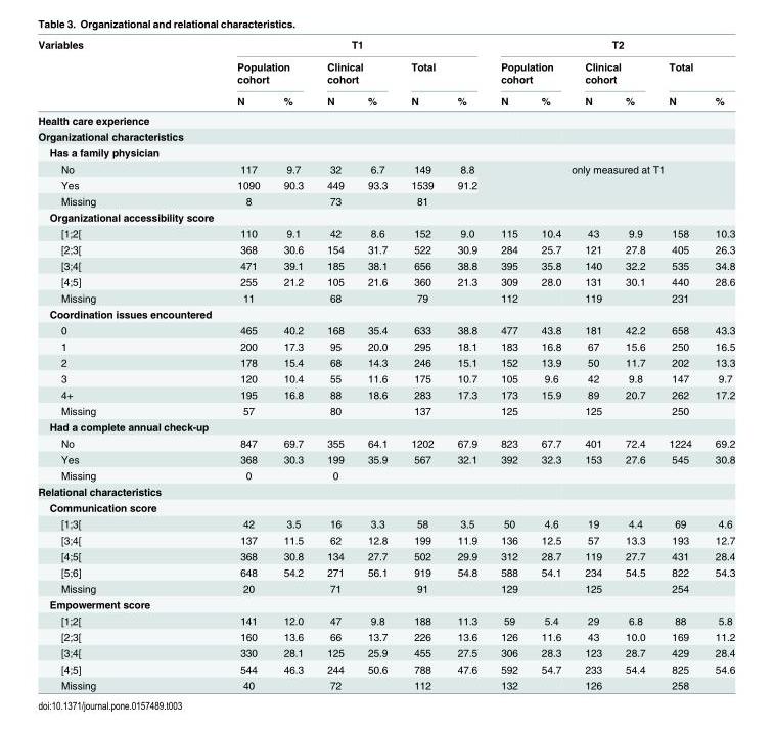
<table><thead><tr><td rowspan="3">Variables</td><td colspan="6">T1</td><td colspan="6">T2</td></tr><tr><td colspan="2">Population cohort</td><td colspan="2">Clinical cohort</td><td colspan="2">Total</td><td colspan="2">Population cohort</td><td colspan="2">Clinical cohort</td><td colspan="2">Total</td></tr><tr><td>N</td><td>%</td><td>N</td><td>%</td><td>N</td><td>%</td><td>N</td><td>%</td><td>N</td><td>%</td><td>N</td><td>%</td></tr></thead><tbody><tr><td colspan="13">Health care experience</td></tr><tr><td colspan="13">Organizational characteristics</td></tr><tr><td colspan="13">Has a family physician</td></tr><tr><td>No</td><td>117</td><td>9.7</td><td>32</td><td>6.7</td><td>149</td><td>8.8</td><td rowspan="3" colspan="6">only measured at T1</td></tr><tr><td>Yes</td><td>1090</td><td>90.3</td><td>449</td><td>93.3</td><td>1539</td><td>91.2</td></tr><tr><td>Missing</td><td>8</td><td></td><td>73</td><td></td><td>81</td><td></td></tr><tr><td colspan="13">Organizational accessibility score</td></tr><tr><td>[1;2[</td><td>110</td><td>9.1</td><td>42</td><td>8.6</td><td>152</td><td>9.0</td><td>115</td><td>10.4</td><td>43</td><td>9.9</td><td>158</td><td>10.3</td></tr><tr><td>[2;3[</td><td>368</td><td>30.6</td><td>154</td><td>31.7</td><td>522</td><td>30.9</td><td>284</td><td>25.7</td><td>121</td><td>27.8</td><td>405</td><td>26.3</td></tr><tr><td>[3;4[</td><td>471</td><td>39.1</td><td>185</td><td>38.1</td><td>656</td><td>38.8</td><td>395</td><td>35.8</td><td>140</td><td>32.2</td><td>535</td><td>34.8</td></tr><tr><td>[4;5]</td><td>255</td><td>21.2</td><td>105</td><td>21.6</td><td>360</td><td>21.3</td><td>309</td><td>28.0</td><td>131</td><td>30.1</td><td>440</td><td>28.6</td></tr><tr><td>Missing</td><td>11</td><td></td><td>68</td><td></td><td>79</td><td></td><td>112</td><td></td><td>119</td><td></td><td>231</td><td></td></tr><tr><td colspan="13">Coordination issues encountered</td></tr><tr><td>0</td><td>465</td><td>40.2</td><td>168</td><td>35.4</td><td>633</td><td>38.8</td><td>477</td><td>43.8</td><td>181</td><td>42.2</td><td>658</td><td>43.3</td></tr><tr><td>1</td><td>200</td><td>17.3</td><td>95</td><td>20.0</td><td>295</td><td>18.1</td><td>183</td><td>16.8</td><td>67</td><td>15.6</td><td>250</td><td>16.5</td></tr><tr><td>2</td><td>178</td><td>15.4</td><td>68</td><td>14.3</td><td>246</td><td>15.1</td><td>152</td><td>13.9</td><td>50</td><td>11.7</td><td>202</td><td>13.3</td></tr><tr><td>3</td><td>120</td><td>10.4</td><td>55</td><td>11.6</td><td>175</td><td>10.7</td><td>105</td><td>9.6</td><td>42</td><td>9.8</td><td>147</td><td>9.7</td></tr><tr><td>4+</td><td>195</td><td>16.8</td><td>88</td><td>18.6</td><td>283</td><td>17.3</td><td>173</td><td>15.9</td><td>89</td><td>20.7</td><td>262</td><td>17.2</td></tr><tr><td>Missing</td><td>57</td><td></td><td>80</td><td></td><td>137</td><td></td><td>125</td><td></td><td>125</td><td></td><td>250</td><td></td></tr><tr><td colspan="13">Had a complete annual check-up</td></tr><tr><td>No</td><td>847</td><td>69.7</td><td>355</td><td>64.1</td><td>1202</td><td>67.9</td><td>823</td><td>67.7</td><td>401</td><td>72.4</td><td>1224</td><td>69.2</td></tr><tr><td>Yes</td><td>368</td><td>30.3</td><td>199</td><td>35.9</td><td>567</td><td>32.1</td><td>392</td><td>32.3</td><td>153</td><td>27.6</td><td>545</td><td>30.8</td></tr><tr><td>Missing</td><td>0</td><td></td><td>0</td><td></td><td></td><td></td><td></td><td></td><td></td><td></td><td></td><td></td></tr><tr><td colspan="13">Relational characteristics</td></tr><tr><td colspan="13">Communication score</td></tr><tr><td>[1;3[</td><td>42</td><td>3.5</td><td>16</td><td>3.3</td><td>58</td><td>3.5</td><td>50</td><td>4.6</td><td>19</td><td>4.4</td><td>69</td><td>4.6</td></tr><tr><td>[3;4[</td><td>137</td><td>11.5</td><td>62</td><td>12.8</td><td>199</td><td>11.9</td><td>136</td><td>12.5</td><td>57</td><td>13.3</td><td>193</td><td>12.7</td></tr><tr><td>[4;5[</td><td>368</td><td>30.8</td><td>134</td><td>27.7</td><td>502</td><td>29.9</td><td>312</td><td>28.7</td><td>119</td><td>27.7</td><td>431</td><td>28.4</td></tr><tr><td>[5;6]</td><td>648</td><td>54.2</td><td>271</td><td>56.1</td><td>919</td><td>54.8</td><td>588</td><td>54.1</td><td>234</td><td>54.5</td><td>822</td><td>54.3</td></tr><tr><td>Missing</td><td>20</td><td></td><td>71</td><td></td><td>91</td><td></td><td>129</td><td></td><td>125</td><td></td><td>254</td><td></td></tr><tr><td colspan="13">Empowerment score</td></tr><tr><td>[1;2[</td><td>141</td><td>12.0</td><td>47</td><td>9.8</td><td>188</td><td>11.3</td><td>59</td><td>5.4</td><td>29</td><td>6.8</td><td>88</td><td>5.8</td></tr><tr><td>[2;3[</td><td>160</td><td>13.6</td><td>66</td><td>13.7</td><td>226</td><td>13.6</td><td>126</td><td>11.6</td><td>43</td><td>10.0</td><td>169</td><td>11.2</td></tr><tr><td>[3;4[</td><td>330</td><td>28.1</td><td>125</td><td>25.9</td><td>455</td><td>27.5</td><td>306</td><td>28.3</td><td>123</td><td>28.7</td><td>429</td><td>28.4</td></tr><tr><td>[4;5]</td><td>544</td><td>46.3</td><td>244</td><td>50.6</td><td>788</td><td>47.6</td><td>592</td><td>54.7</td><td>233</td><td>54.4</td><td>825</td><td>54.6</td></tr><tr><td>Missing</td><td>40</td><td></td><td>72</td><td></td><td>112</td><td></td><td>132</td><td></td><td>126</td><td></td><td>258</td><td></td></tr></tbody></table>